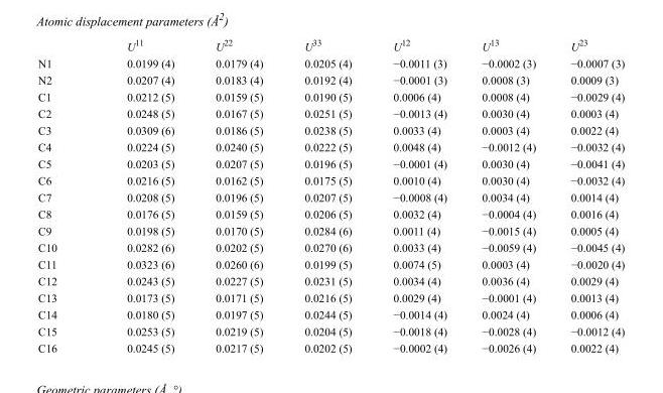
<table><thead><tr><td></td><td>U<sup>11</sup></td><td>U<sup>22</sup></td><td>U<sup>33</sup></td><td>U<sup>12</sup></td><td>U<sup>13</sup></td><td>U<sup>23</sup></td></tr></thead><tbody><tr><td>N1</td><td>0.0199 (4)</td><td>0.0179 (4)</td><td>0.0205 (4)</td><td>−0.0011 (3)</td><td>−0.0002 (3)</td><td>−0.0007 (3)</td></tr><tr><td>N2</td><td>0.0207 (4)</td><td>0.0183 (4)</td><td>0.0192 (4)</td><td>−0.0001 (3)</td><td>0.0008 (3)</td><td>0.0009 (3)</td></tr><tr><td>C1</td><td>0.0212 (5)</td><td>0.0159 (5)</td><td>0.0190 (5)</td><td>0.0006 (4)</td><td>0.0008 (4)</td><td>−0.0029 (4)</td></tr><tr><td>C2</td><td>0.0248 (5)</td><td>0.0167 (5)</td><td>0.0251 (5)</td><td>−0.0013 (4)</td><td>0.0030 (4)</td><td>0.0003 (4)</td></tr><tr><td>C3</td><td>0.0309 (6)</td><td>0.0186 (5)</td><td>0.0238 (5)</td><td>0.0033 (4)</td><td>0.0003 (4)</td><td>0.0022 (4)</td></tr><tr><td>C4</td><td>0.0224 (5)</td><td>0.0240 (5)</td><td>0.0222 (5)</td><td>0.0048 (4)</td><td>−0.0012 (4)</td><td>−0.0032 (4)</td></tr><tr><td>C5</td><td>0.0203 (5)</td><td>0.0207 (5)</td><td>0.0196 (5)</td><td>−0.0001 (4)</td><td>0.0030 (4)</td><td>−0.0041 (4)</td></tr><tr><td>C6</td><td>0.0216 (5)</td><td>0.0162 (5)</td><td>0.0175 (5)</td><td>0.0010 (4)</td><td>0.0030 (4)</td><td>−0.0032 (4)</td></tr><tr><td>C7</td><td>0.0208 (5)</td><td>0.0196 (5)</td><td>0.0207 (5)</td><td>−0.0008 (4)</td><td>0.0034 (4)</td><td>0.0014 (4)</td></tr><tr><td>C8</td><td>0.0176 (5)</td><td>0.0159 (5)</td><td>0.0206 (5)</td><td>0.0032 (4)</td><td>−0.0004 (4)</td><td>0.0016 (4)</td></tr><tr><td>C9</td><td>0.0198 (5)</td><td>0.0170 (5)</td><td>0.0284 (6)</td><td>0.0011 (4)</td><td>−0.0015 (4)</td><td>0.0005 (4)</td></tr><tr><td>C10</td><td>0.0282 (6)</td><td>0.0202 (5)</td><td>0.0270 (6)</td><td>0.0033 (4)</td><td>−0.0059 (4)</td><td>−0.0045 (4)</td></tr><tr><td>C11</td><td>0.0323 (6)</td><td>0.0260 (6)</td><td>0.0199 (5)</td><td>0.0074 (5)</td><td>0.0003 (4)</td><td>−0.0020 (4)</td></tr><tr><td>C12</td><td>0.0243 (5)</td><td>0.0227 (5)</td><td>0.0231 (5)</td><td>0.0034 (4)</td><td>0.0036 (4)</td><td>0.0029 (4)</td></tr><tr><td>C13</td><td>0.0173 (5)</td><td>0.0171 (5)</td><td>0.0216 (5)</td><td>0.0029 (4)</td><td>−0.0001 (4)</td><td>0.0013 (4)</td></tr><tr><td>C14</td><td>0.0180 (5)</td><td>0.0197 (5)</td><td>0.0244 (5)</td><td>−0.0014 (4)</td><td>0.0024 (4)</td><td>0.0006 (4)</td></tr><tr><td>C15</td><td>0.0253 (5)</td><td>0.0219 (5)</td><td>0.0204 (5)</td><td>−0.0018 (4)</td><td>−0.0028 (4)</td><td>−0.0012 (4)</td></tr><tr><td>C16</td><td>0.0245 (5)</td><td>0.0217 (5)</td><td>0.0202 (5)</td><td>−0.0002 (4)</td><td>−0.0026 (4)</td><td>0.0022 (4)</td></tr></tbody></table>